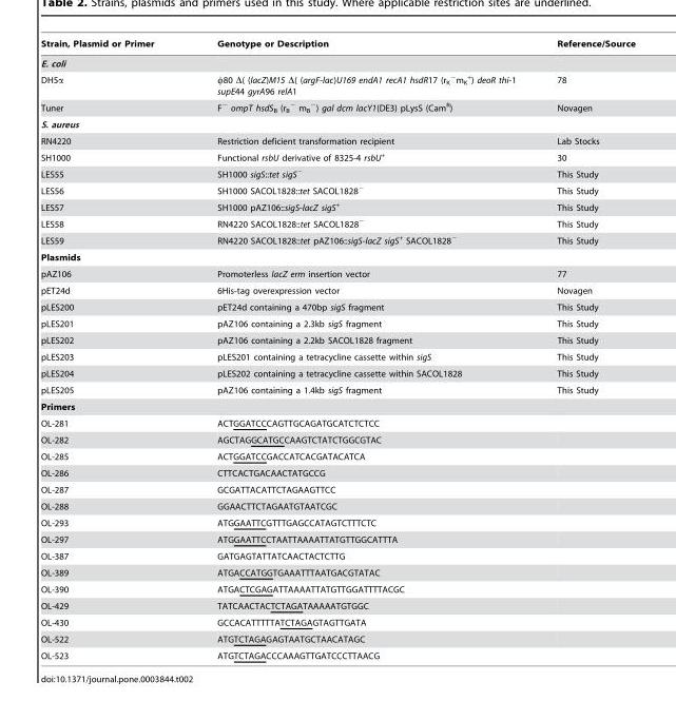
<table><thead><tr><td>Strain, Plasmid or Primer</td><td>Genotype or Description</td><td>Reference/Source</td></tr></thead><tbody><tr><td colspan="3">E. coli</td></tr><tr><td>DH5α</td><td>φ80 Δ( (lacZ)M15 Δ( (argF-lac)U169 endA1 recA1 hsdR17 (r<sub>K</sub> <sup>−</sup>m<sub>K</sub> <sup>+</sup>) deoR thi-1 supE44 gyrA96 relA1</td><td>78</td></tr><tr><td>Tuner</td><td>F<sup>−</sup> ompT hsdS<sub>B</sub> (r<sub>B</sub> <sup>−</sup> m<sub>B</sub> <sup>−</sup>) gal dcm lacY1(DE3) pLysS (Cam<sup>R</sup>)</td><td>Novagen</td></tr><tr><td colspan="3">S. aureus</td></tr><tr><td>RN4220</td><td>Restriction deficient transformation recipient</td><td>Lab Stocks</td></tr><tr><td>SH1000</td><td>Functional rsbU derivative of 8325-4 rsbU<sup>+</sup></td><td>30</td></tr><tr><td>LES55</td><td>SH1000 sigS::tet sigS<sup>−</sup></td><td>This Study</td></tr><tr><td>LES56</td><td>SH1000 SACOL1828::tet SACOL1828<sup>−</sup></td><td>This Study</td></tr><tr><td>LES57</td><td>SH1000 pAZ106::sigS-lacZ sigS<sup>+</sup></td><td>This Study</td></tr><tr><td>LES58</td><td>RN4220 SACOL1828::tet SACOL1828<sup>−</sup></td><td>This Study</td></tr><tr><td>LES59</td><td>RN4220 SACOL1828::tet pAZ106::sigS-lacZ sigS<sup>+</sup> SACOL1828<sup>−</sup></td><td>This Study</td></tr><tr><td colspan="3">Plasmids</td></tr><tr><td>pAZ106</td><td>Promoterless lacZ erm insertion vector</td><td>77</td></tr><tr><td>pET24d</td><td>6His-tag overexpression vector</td><td>Novagen</td></tr><tr><td>pLES200</td><td>pET24d containing a 470bp sigS fragment</td><td>This Study</td></tr><tr><td>pLES201</td><td>pAZ106 containing a 2.3kb sigS fragment</td><td>This Study</td></tr><tr><td>pLES202</td><td>pAZ106 containing a 2.2kb SACOL1828 fragment</td><td>This Study</td></tr><tr><td>pLES203</td><td>pLES201 containing a tetracycline cassette within sigS</td><td>This Study</td></tr><tr><td>pLES204</td><td>pLES202 containing a tetracycline cassette within SACOL1828</td><td>This Study</td></tr><tr><td>pLES205</td><td>pAZ106 containing a 1.4kb sigS fragment</td><td>This Study</td></tr><tr><td colspan="3">Primers</td></tr><tr><td>OL-281</td><td>ACTGGATCCCAGTTGCAGATGCATCTCTCC</td><td></td></tr><tr><td>OL-282</td><td>AGCTAGGCATGCCAAGTCTATCTGGCGTAC</td><td></td></tr><tr><td>OL-285</td><td>ACTGGATCCGACCATCACGATACATCA</td><td></td></tr><tr><td>OL-286</td><td>CTTCACTGACAACTATGCCG</td><td></td></tr><tr><td>OL-287</td><td>GCGATTACATTCTAGAAGTTCC</td><td></td></tr><tr><td>OL-288</td><td>GGAACTTCTAGAATGTAATCGC</td><td></td></tr><tr><td>OL-293</td><td>ATGGAATTCGTTTGAGCCATAGTCTTTCTC</td><td></td></tr><tr><td>OL-297</td><td>ATGGAATTCCTAATTAAAATTATGTTGGCATTTA</td><td></td></tr><tr><td>OL-387</td><td>GATGAGTATTATCAACTACTCTTG</td><td></td></tr><tr><td>OL-389</td><td>ATGACCATGGTGAAATTTAATGACGTATAC</td><td></td></tr><tr><td>OL-390</td><td>ATGACTCGAGATTAAAATTATGTTGGATTTTACGC</td><td></td></tr><tr><td>OL-429</td><td>TATCAACTACTCTAGATAAAAATGTGGC</td><td></td></tr><tr><td>OL-430</td><td>GCCACATTTTTATCTAGAGTAGTTGATA</td><td></td></tr><tr><td>OL-522</td><td>ATGTCTAGAGAGTAATGCTAACATAGC</td><td></td></tr><tr><td>OL-523</td><td>ATGTCTAGACCCAAAGTTGATCCCTTAACG</td><td></td></tr></tbody></table>